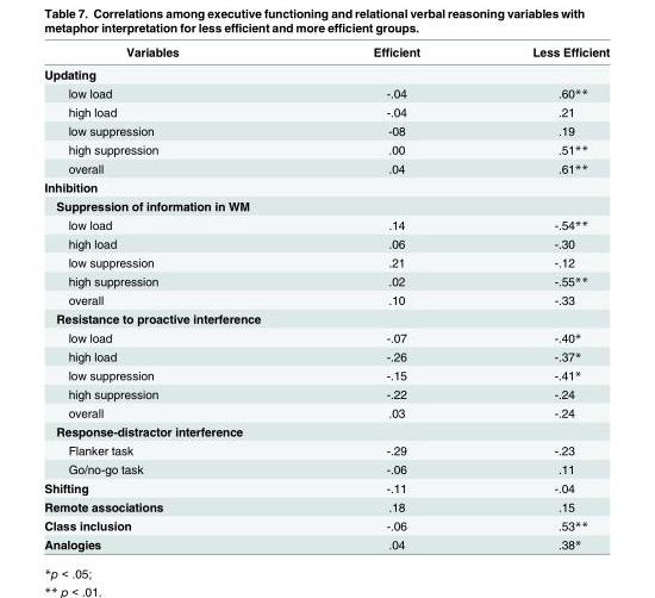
<table><thead><tr><td>Variables</td><td>Efficient</td><td>Less Efficient</td></tr></thead><tbody><tr><td colspan="3">Updating</td></tr><tr><td>low load</td><td>-.04</td><td>.60**</td></tr><tr><td>high load</td><td>-.04</td><td>.21</td></tr><tr><td>low suppression</td><td>-08</td><td>.19</td></tr><tr><td>high suppression</td><td>.00</td><td>.51**</td></tr><tr><td>overall</td><td>.04</td><td>.61**</td></tr><tr><td colspan="3">Inhibition</td></tr><tr><td colspan="3">Suppression of information in WM</td></tr><tr><td>low load</td><td>.14</td><td>-.54**</td></tr><tr><td>high load</td><td>.06</td><td>-.30</td></tr><tr><td>low suppression</td><td>.21</td><td>-.12</td></tr><tr><td>high suppression</td><td>.02</td><td>-.55**</td></tr><tr><td>overall</td><td>.10</td><td>-.33</td></tr><tr><td colspan="3">Resistance to proactive interference</td></tr><tr><td>low load</td><td>-.07</td><td>-.40*</td></tr><tr><td>high load</td><td>-.26</td><td>-.37*</td></tr><tr><td>low suppression</td><td>-.15</td><td>-.41*</td></tr><tr><td>high suppression</td><td>-.22</td><td>-.24</td></tr><tr><td>overall</td><td>.03</td><td>-.24</td></tr><tr><td colspan="3">Response-distractor interference</td></tr><tr><td>Flanker task</td><td>-.29</td><td>-.23</td></tr><tr><td>Go/no-go task</td><td>-.06</td><td>.11</td></tr><tr><td>Shifting</td><td>-.11</td><td>-.04</td></tr><tr><td>Remote associations</td><td>.18</td><td>.15</td></tr><tr><td>Class inclusion</td><td>-.06</td><td>.53**</td></tr><tr><td>Analogies</td><td>.04</td><td>.38*</td></tr></tbody></table>